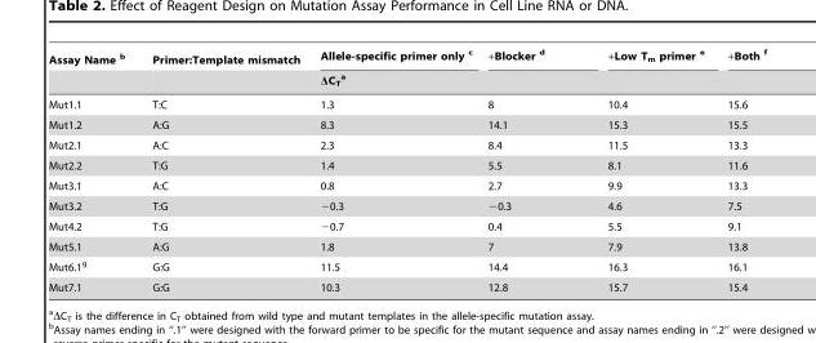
<table><thead><tr><td rowspan="2">Assay Name b</td><td rowspan="2">Primer:Template mismatch</td><td>Allele-specific primer only c</td><td>+Blocker d</td><td>+Low T<sub>m</sub> primer e</td><td>+Both f</td></tr><tr><td colspan="4">ΔC<sub>T</sub> a</td></tr></thead><tbody><tr><td>Mut1.1</td><td>T:C</td><td>1.3</td><td>8</td><td>10.4</td><td>15.6</td></tr><tr><td>Mut1.2</td><td>A:G</td><td>8.3</td><td>14.1</td><td>15.3</td><td>15.5</td></tr><tr><td>Mut2.1</td><td>A:C</td><td>2.3</td><td>8.4</td><td>11.5</td><td>13.3</td></tr><tr><td>Mut2.2</td><td>T:G</td><td>1.4</td><td>5.5</td><td>8.1</td><td>11.6</td></tr><tr><td>Mut3.1</td><td>A:C</td><td>0.8</td><td>2.7</td><td>9.9</td><td>13.3</td></tr><tr><td>Mut3.2</td><td>T:G</td><td>−0.3</td><td>−0.3</td><td>4.6</td><td>7.5</td></tr><tr><td>Mut4.2</td><td>T:G</td><td>−0.7</td><td>0.4</td><td>5.5</td><td>9.1</td></tr><tr><td>Mut5.1</td><td>A:G</td><td>1.8</td><td>7</td><td>7.9</td><td>13.8</td></tr><tr><td>Mut6.1<sup>g</sup></td><td>G:G</td><td>11.5</td><td>14.4</td><td>16.3</td><td>16.1</td></tr><tr><td>Mut7.1</td><td>G:G</td><td>10.3</td><td>12.8</td><td>15.7</td><td>15.4</td></tr></tbody></table>